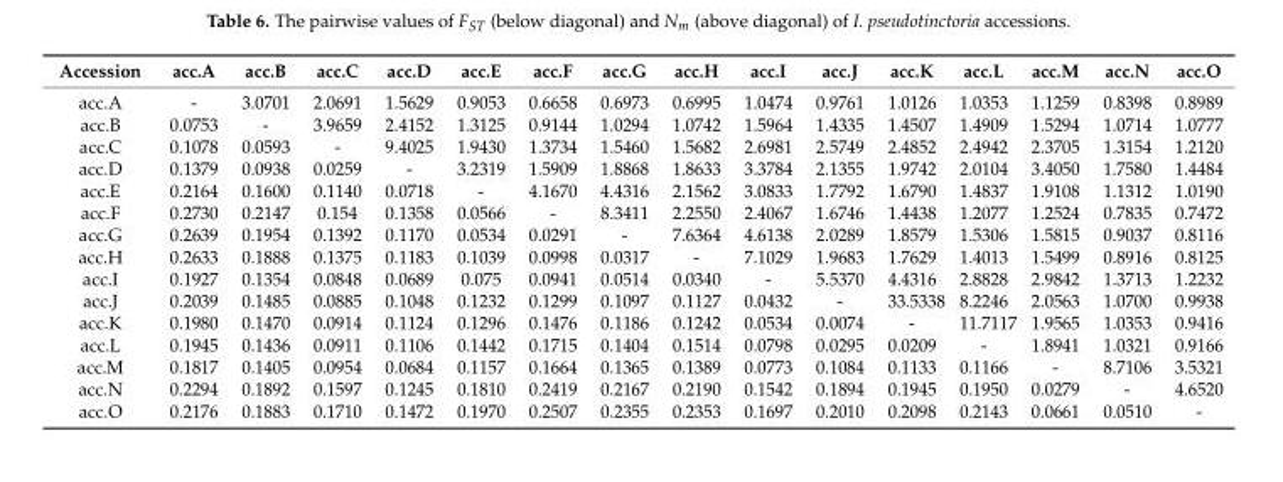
<table><thead><tr><td>Accession</td><td>acc.A</td><td>acc.B</td><td>acc.C</td><td>acc.D</td><td>acc.E</td><td>acc.F</td><td>acc.G</td><td>acc.H</td><td>acc.I</td><td>acc.J</td><td>acc.K</td><td>acc.L</td><td>acc.M</td><td>acc.N</td><td>acc.O</td></tr></thead><tbody><tr><td>acc.A</td><td>-</td><td>3.0701</td><td>2.0691</td><td>1.5629</td><td>0.9053</td><td>0.6658</td><td>0.6973</td><td>0.6995</td><td>1.0474</td><td>0.9761</td><td>1.0126</td><td>1.0353</td><td>1.1259</td><td>0.8398</td><td>0.8989</td></tr><tr><td>acc.B</td><td>0.0753</td><td>-</td><td>3.9659</td><td>2.4152</td><td>1.3125</td><td>0.9144</td><td>1.0294</td><td>1.0742</td><td>1.5964</td><td>1.4335</td><td>1.4507</td><td>1.4909</td><td>1.5294</td><td>1.0714</td><td>1.0777</td></tr><tr><td>acc.C</td><td>0.1078</td><td>0.0593</td><td>-</td><td>9.4025</td><td>1.9430</td><td>1.3734</td><td>1.5460</td><td>1.5682</td><td>2.6981</td><td>2.5749</td><td>2.4852</td><td>2.4942</td><td>2.3705</td><td>1.3154</td><td>1.2120</td></tr><tr><td>acc.D</td><td>0.1379</td><td>0.0938</td><td>0.0259</td><td>-</td><td>3.2319</td><td>1.5909</td><td>1.8868</td><td>1.8633</td><td>3.3784</td><td>2.1355</td><td>1.9742</td><td>2.0104</td><td>3.4050</td><td>1.7580</td><td>1.4484</td></tr><tr><td>acc.E</td><td>0.2164</td><td>0.1600</td><td>0.1140</td><td>0.0718</td><td>-</td><td>4.1670</td><td>4.4316</td><td>2.1562</td><td>3.0833</td><td>1.7792</td><td>1.6790</td><td>1.4837</td><td>1.9108</td><td>1.1312</td><td>1.0190</td></tr><tr><td>acc.F</td><td>0.2730</td><td>0.2147</td><td>0.154</td><td>0.1358</td><td>0.0566</td><td>-</td><td>8.3411</td><td>2.2550</td><td>2.4067</td><td>1.6746</td><td>1.4438</td><td>1.2077</td><td>1.2524</td><td>0.7835</td><td>0.7472</td></tr><tr><td>acc.G</td><td>0.2639</td><td>0.1954</td><td>0.1392</td><td>0.1170</td><td>0.0534</td><td>0.0291</td><td>-</td><td>7.6364</td><td>4.6138</td><td>2.0289</td><td>1.8579</td><td>1.5306</td><td>1.5815</td><td>0.9037</td><td>0.8116</td></tr><tr><td>acc.H</td><td>0.2633</td><td>0.1888</td><td>0.1375</td><td>0.1183</td><td>0.1039</td><td>0.0998</td><td>0.0317</td><td>-</td><td>7.1029</td><td>1.9683</td><td>1.7629</td><td>1.4013</td><td>1.5499</td><td>0.8916</td><td>0.8125</td></tr><tr><td>acc.I</td><td>0.1927</td><td>0.1354</td><td>0.0848</td><td>0.0689</td><td>0.075</td><td>0.0941</td><td>0.0514</td><td>0.0340</td><td>-</td><td>5.5370</td><td>4.4316</td><td>2.8828</td><td>2.9842</td><td>1.3713</td><td>1.2232</td></tr><tr><td>acc.J</td><td>0.2039</td><td>0.1485</td><td>0.0885</td><td>0.1048</td><td>0.1232</td><td>0.1299</td><td>0.1097</td><td>0.1127</td><td>0.0432</td><td>-</td><td>33.5338</td><td>8.2246</td><td>2.0563</td><td>1.0700</td><td>0.9938</td></tr><tr><td>acc.K</td><td>0.1980</td><td>0.1470</td><td>0.0914</td><td>0.1124</td><td>0.1296</td><td>0.1476</td><td>0.1186</td><td>0.1242</td><td>0.0534</td><td>0.0074</td><td>-</td><td>11.7117</td><td>1.9565</td><td>1.0353</td><td>0.9416</td></tr><tr><td>acc.L</td><td>0.1945</td><td>0.1436</td><td>0.0911</td><td>0.1106</td><td>0.1442</td><td>0.1715</td><td>0.1404</td><td>0.1514</td><td>0.0798</td><td>0.0295</td><td>0.0209</td><td>-</td><td>1.8941</td><td>1.0321</td><td>0.9166</td></tr><tr><td>acc.M</td><td>0.1817</td><td>0.1405</td><td>0.0954</td><td>0.0684</td><td>0.1157</td><td>0.1664</td><td>0.1365</td><td>0.1389</td><td>0.0773</td><td>0.1084</td><td>0.1133</td><td>0.1166</td><td>-</td><td>8.7106</td><td>3.5321</td></tr><tr><td>acc.N</td><td>0.2294</td><td>0.1892</td><td>0.1597</td><td>0.1245</td><td>0.1810</td><td>0.2419</td><td>0.2167</td><td>0.2190</td><td>0.1542</td><td>0.1894</td><td>0.1945</td><td>0.1950</td><td>0.0279</td><td>-</td><td>4.6520</td></tr><tr><td>acc.O</td><td>0.2176</td><td>0.1883</td><td>0.1710</td><td>0.1472</td><td>0.1970</td><td>0.2507</td><td>0.2355</td><td>0.2353</td><td>0.1697</td><td>0.2010</td><td>0.2098</td><td>0.2143</td><td>0.0661</td><td>0.0510</td><td>-</td></tr></tbody></table>